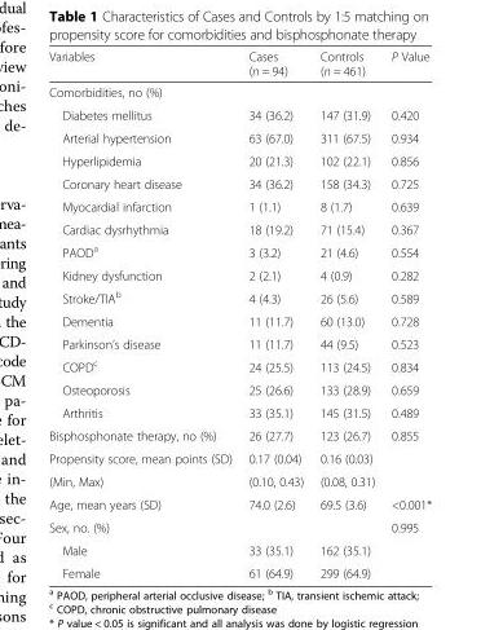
<table><thead><tr><td>Variables</td><td>Cases (n = 94)</td><td>Controls (n = 461)</td><td>P Value</td></tr></thead><tbody><tr><td colspan="4">Comorbidities, no (%)</td></tr><tr><td>Diabetes mellitus</td><td>34 (36.2)</td><td>147 (31.9)</td><td>0.420</td></tr><tr><td>Arterial hypertension</td><td>63 (67.0)</td><td>311 (67.5)</td><td>0.934</td></tr><tr><td>Hyperlipidemia</td><td>20 (21.3)</td><td>102 (22.1)</td><td>0.856</td></tr><tr><td>Coronary heart disease</td><td>34 (36.2)</td><td>158 (34.3)</td><td>0.725</td></tr><tr><td>Myocardial infarction</td><td>1 (1.1)</td><td>8 (1.7)</td><td>0.639</td></tr><tr><td>Cardiac dysrhythmia</td><td>18 (19.2)</td><td>71 (15.4)</td><td>0.367</td></tr><tr><td>PAOD<sup>a</sup></td><td>3 (3.2)</td><td>21 (4.6)</td><td>0.554</td></tr><tr><td>Kidney dysfunction</td><td>2 (2.1)</td><td>4 (0.9)</td><td>0.282</td></tr><tr><td>Stroke/TIA<sup>b</sup></td><td>4 (4.3)</td><td>26 (5.6)</td><td>0.589</td></tr><tr><td>Dementia</td><td>11 (11.7)</td><td>60 (13.0)</td><td>0.728</td></tr><tr><td>Parkinson’s disease</td><td>11 (11.7)</td><td>44 (9.5)</td><td>0.523</td></tr><tr><td>COPD<sup>c</sup></td><td>24 (25.5)</td><td>113 (24.5)</td><td>0.834</td></tr><tr><td>Osteoporosis</td><td>25 (26.6)</td><td>133 (28.9)</td><td>0.659</td></tr><tr><td>Arthritis</td><td>33 (35.1)</td><td>145 (31.5)</td><td>0.489</td></tr><tr><td>Bisphosphonate therapy, no (%)</td><td>26 (27.7)</td><td>123 (26.7)</td><td>0.855</td></tr><tr><td>Propensity score, mean points (SD)</td><td>0.17 (0.04)</td><td>0.16 (0.03)</td><td></td></tr><tr><td>(Min, Max)</td><td>(0.10, 0.43)</td><td>(0.08, 0.31)</td><td></td></tr><tr><td>Age, mean years (SD)</td><td>74.0 (2.6)</td><td>69.5 (3.6)</td><td>&lt;0.001*</td></tr><tr><td>Sex, no. (%)</td><td></td><td></td><td>0.995</td></tr><tr><td>Male</td><td>33 (35.1)</td><td>162 (35.1)</td><td></td></tr><tr><td>Female</td><td>61 (64.9)</td><td>299 (64.9)</td><td></td></tr></tbody></table>